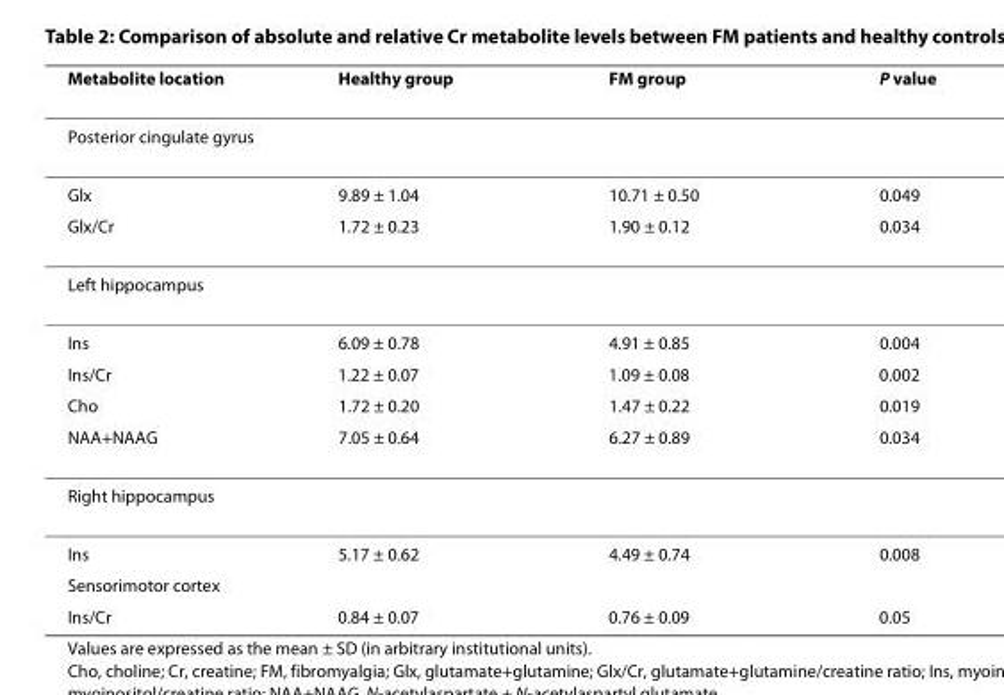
<table><thead><tr><td>Metabolite location</td><td>Healthy group</td><td>FM group</td><td>P value</td></tr></thead><tbody><tr><td colspan="4">Posterior cingulate gyrus</td></tr><tr><td>Glx</td><td>9.89 ± 1.04</td><td>10.71 ± 0.50</td><td>0.049</td></tr><tr><td>Glx/Cr</td><td>1.72 ± 0.23</td><td>1.90 ± 0.12</td><td>0.034</td></tr><tr><td colspan="4">Left hippocampus</td></tr><tr><td>Ins</td><td>6.09 ± 0.78</td><td>4.91 ± 0.85</td><td>0.004</td></tr><tr><td>Ins/Cr</td><td>1.22 ± 0.07</td><td>1.09 ± 0.08</td><td>0.002</td></tr><tr><td>Cho</td><td>1.72 ± 0.20</td><td>1.47 ± 0.22</td><td>0.019</td></tr><tr><td>NAA+NAAG</td><td>7.05 ± 0.64</td><td>6.27 ± 0.89</td><td>0.034</td></tr><tr><td colspan="4">Right hippocampus</td></tr><tr><td>Ins</td><td>5.17 ± 0.62</td><td>4.49 ± 0.74</td><td>0.008</td></tr><tr><td colspan="4">Sensorimotor cortex</td></tr><tr><td>Ins/Cr</td><td>0.84 ± 0.07</td><td>0.76 ± 0.09</td><td>0.05</td></tr></tbody></table>